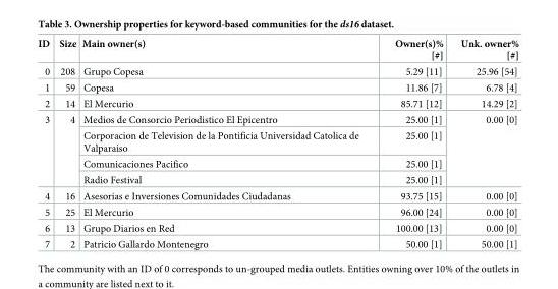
<table><thead><tr><td>ID</td><td>Size</td><td>Main owner(s)</td><td>Owner(s)% [#]</td><td>Unk. owner% [#]</td></tr></thead><tbody><tr><td>0</td><td>208</td><td>Grupo Copesa</td><td>5.29 [11]</td><td>25.96 [54]</td></tr><tr><td>1</td><td>59</td><td>Copesa</td><td>11.86 [7]</td><td>6.78 [4]</td></tr><tr><td>2</td><td>14</td><td>El Mercurio</td><td>85.71 [12]</td><td>14.29 [2]</td></tr><tr><td rowspan="4">3</td><td rowspan="4">4</td><td>Medios de Consorcio Periodistico El Epicentro</td><td>25.00 [1]</td><td rowspan="4">0.00 [0]</td></tr><tr><td>Corporacion de Television de la Pontificia Universidad Catolica de Valparaiso</td><td>25.00 [1]</td></tr><tr><td>Comunicaciones Pacifico</td><td>25.00 [1]</td></tr><tr><td>Radio Festival</td><td>25.00 [1]</td></tr><tr><td>4</td><td>16</td><td>Asesorias e Inversiones Comunidades Ciudadanas</td><td>93.75 [15]</td><td>0.00 [0]</td></tr><tr><td>5</td><td>25</td><td>El Mercurio</td><td>96.00 [24]</td><td>0.00 [0]</td></tr><tr><td>6</td><td>13</td><td>Grupo Diarios en Red</td><td>100.00 [13]</td><td>0.00 [0]</td></tr><tr><td>7</td><td>2</td><td>Patricio Gallardo Montenegro</td><td>50.00 [1]</td><td>50.00 [1]</td></tr></tbody></table>